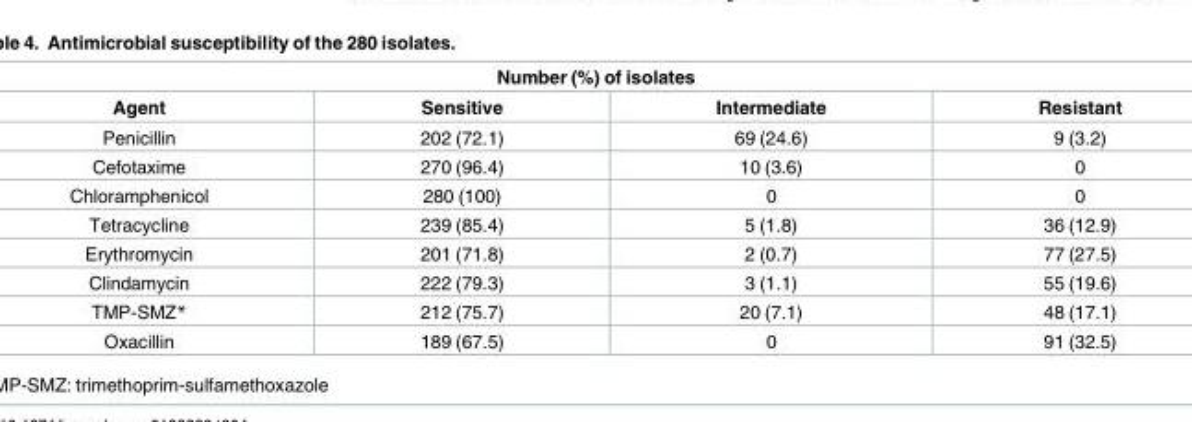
<table><thead><tr><td colspan="4">Number (%) of isolates</td></tr><tr><td>Agent</td><td>Sensitive</td><td>Intermediate</td><td>Resistant</td></tr></thead><tbody><tr><td>Penicillin</td><td>202 (72.1)</td><td>69 (24.6)</td><td>9 (3.2)</td></tr><tr><td>Cefotaxime</td><td>270 (96.4)</td><td>10 (3.6)</td><td>0</td></tr><tr><td>Chloramphenicol</td><td>280 (100)</td><td>0</td><td>0</td></tr><tr><td>Tetracycline</td><td>239 (85.4)</td><td>5 (1.8)</td><td>36 (12.9)</td></tr><tr><td>Erythromycin</td><td>201 (71.8)</td><td>2 (0.7)</td><td>77 (27.5)</td></tr><tr><td>Clindamycin</td><td>222 (79.3)</td><td>3 (1.1)</td><td>55 (19.6)</td></tr><tr><td>TMP-SMZ*</td><td>212 (75.7)</td><td>20 (7.1)</td><td>48 (17.1)</td></tr><tr><td>Oxacillin</td><td>189 (67.5)</td><td>0</td><td>91 (32.5)</td></tr></tbody></table>